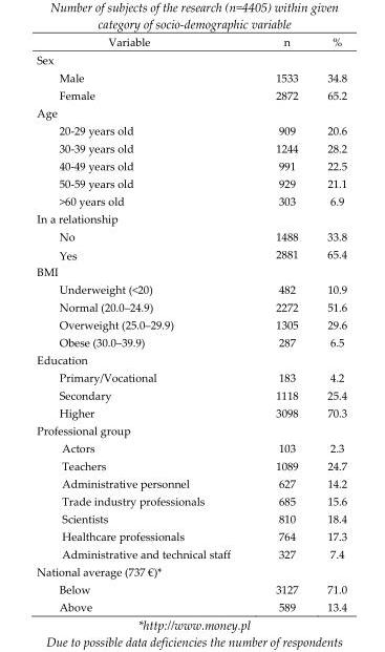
<table><thead><tr><td>Variable</td><td>n</td><td>%</td></tr></thead><tbody><tr><td colspan="3">Sex</td></tr><tr><td>Male</td><td>1533</td><td>34.8</td></tr><tr><td>Female</td><td>2872</td><td>65.2</td></tr><tr><td colspan="3">Age</td></tr><tr><td>20-29 years old</td><td>909</td><td>20.6</td></tr><tr><td>30-39 years old</td><td>1244</td><td>28.2</td></tr><tr><td>40-49 years old</td><td>991</td><td>22.5</td></tr><tr><td>50-59 years old</td><td>929</td><td>21.1</td></tr><tr><td>&gt;60 years old</td><td>303</td><td>6.9</td></tr><tr><td colspan="3">In a relationship</td></tr><tr><td>No</td><td>1488</td><td>33.8</td></tr><tr><td>Yes</td><td>2881</td><td>65.4</td></tr><tr><td colspan="3">BMI</td></tr><tr><td>Underweight (&lt;20)</td><td>482</td><td>10.9</td></tr><tr><td>Normal (20.0–24.9)</td><td>2272</td><td>51.6</td></tr><tr><td>Overweight (25.0–29.9)</td><td>1305</td><td>29.6</td></tr><tr><td>Obese (30.0–39.9)</td><td>287</td><td>6.5</td></tr><tr><td colspan="3">Education</td></tr><tr><td>Primary/Vocational</td><td>183</td><td>4.2</td></tr><tr><td>Secondary</td><td>1118</td><td>25.4</td></tr><tr><td>Higher</td><td>3098</td><td>70.3</td></tr><tr><td colspan="3">Professional group</td></tr><tr><td>Actors</td><td>103</td><td>2.3</td></tr><tr><td>Teachers</td><td>1089</td><td>24.7</td></tr><tr><td>Administrative personnel</td><td>627</td><td>14.2</td></tr><tr><td>Trade industry professionals</td><td>685</td><td>15.6</td></tr><tr><td>Scientists</td><td>810</td><td>18.4</td></tr><tr><td>Healthcare professionals</td><td>764</td><td>17.3</td></tr><tr><td>Administrative and technical staff</td><td>327</td><td>7.4</td></tr><tr><td colspan="3">National average (737 €)*</td></tr><tr><td>Below</td><td>3127</td><td>71.0</td></tr><tr><td>Above</td><td>589</td><td>13.4</td></tr></tbody></table>